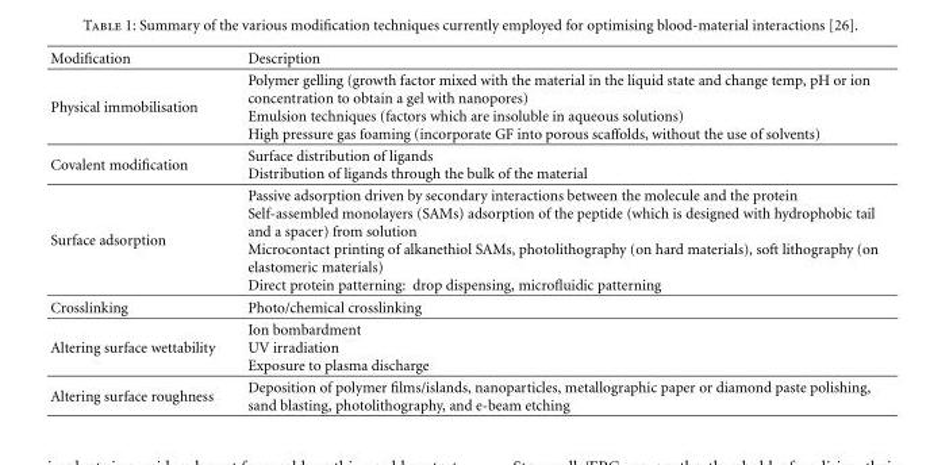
<table><thead><tr><td>Modification</td><td>Description</td></tr></thead><tbody><tr><td>Physical immobilisation</td><td>Polymer gelling (growth factor mixed with the material in the liquid state and change temp, pH or ion concentration to obtain a gel with nanopores) Emulsion techniques (factors which are insoluble in aqueous solutions) High pressure gas foaming (incorporate GF into porous scaffolds, without the use of solvents)</td></tr><tr><td>Covalent modification</td><td>Surface distribution of ligands Distribution of ligands through the bulk of the material</td></tr><tr><td>Surface adsorption</td><td>Passive adsorption driven by secondary interactions between the molecule and the protein Self-assembled monolayers (SAMs) adsorption of the peptide (which is designed with hydrophobic tail and a spacer) from solution Microcontact printing of alkanethiol SAMs, photolithography (on hard materials), soft lithography (on elastomeric materials) Direct protein patterning: drop dispensing, microfluidic patterning</td></tr><tr><td>Crosslinking</td><td>Photo/chemical crosslinking</td></tr><tr><td>Altering surface wettability</td><td>Ion bombardment UV irradiation Exposure to plasma discharge</td></tr><tr><td>Altering surface roughness</td><td>Deposition of polymer films/islands, nanoparticles, metallographic paper or diamond paste polishing, sand blasting, photolithography, and e-beam etching</td></tr></tbody></table>